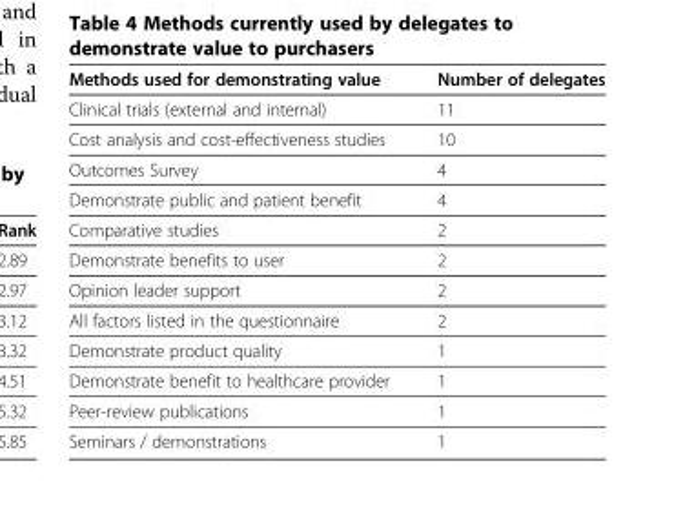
<table><thead><tr><td>Methods used for demonstrating value</td><td>Number of delegates</td></tr></thead><tbody><tr><td>Clinical trials (external and internal)</td><td>11</td></tr><tr><td>Cost analysis and cost-effectiveness studies</td><td>10</td></tr><tr><td>Outcomes Survey</td><td>4</td></tr><tr><td>Demonstrate public and patient benefit</td><td>4</td></tr><tr><td>Comparative studies</td><td>2</td></tr><tr><td>Demonstrate benefits to user</td><td>2</td></tr><tr><td>Opinion leader support</td><td>2</td></tr><tr><td>All factors listed in the questionnaire</td><td>2</td></tr><tr><td>Demonstrate product quality</td><td>1</td></tr><tr><td>Demonstrate benefit to healthcare provider</td><td>1</td></tr><tr><td>Peer-review publications</td><td>1</td></tr><tr><td>Seminars / demonstrations</td><td>1</td></tr></tbody></table>